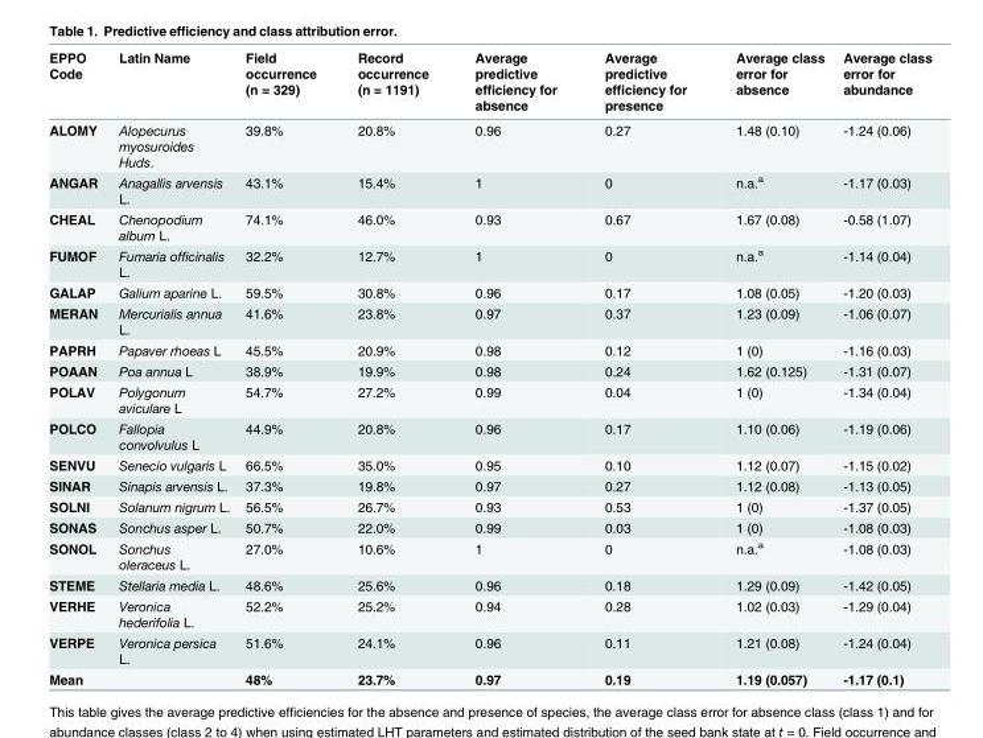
<table><thead><tr><td>EPPO Code</td><td>Latin Name</td><td>Field occurrence (n = 329)</td><td>Record occurrence (n = 1191)</td><td>Average predictive efficiency for absence</td><td>Average predictive efficiency for presence</td><td>Average class error for absence</td><td>Average class error for abundance</td></tr></thead><tbody><tr><td>ALOMY</td><td>Alopecurus myosuroides Huds.</td><td>39.8%</td><td>20.8%</td><td>0.96</td><td>0.27</td><td>1.48 (0.10)</td><td>-1.24 (0.06)</td></tr><tr><td>ANGAR</td><td>Anagallis arvensis L.</td><td>43.1%</td><td>15.4%</td><td>1</td><td>0</td><td>n.a.<sup>a</sup></td><td>-1.17 (0.03)</td></tr><tr><td>CHEAL</td><td>Chenopodium album L.</td><td>74.1%</td><td>46.0%</td><td>0.93</td><td>0.67</td><td>1.67 (0.08)</td><td>-0.58 (1.07)</td></tr><tr><td>FUMOF</td><td>Fumaria officinalis L.</td><td>32.2%</td><td>12.7%</td><td>1</td><td>0</td><td>n.a.<sup>a</sup></td><td>-1.14 (0.04)</td></tr><tr><td>GALAP</td><td>Galium aparine L.</td><td>59.5%</td><td>30.8%</td><td>0.96</td><td>0.17</td><td>1.08 (0.05)</td><td>-1.20 (0.03)</td></tr><tr><td>MERAN</td><td>Mercurialis annua L.</td><td>41.6%</td><td>23.8%</td><td>0.97</td><td>0.37</td><td>1.23 (0.09)</td><td>-1.06 (0.07)</td></tr><tr><td>PAPRH</td><td>Papaver rhoeas L</td><td>45.5%</td><td>20.9%</td><td>0.98</td><td>0.12</td><td>1 (0)</td><td>-1.16 (0.03)</td></tr><tr><td>POAAN</td><td>Poa annua L</td><td>38.9%</td><td>19.9%</td><td>0.98</td><td>0.24</td><td>1.62 (0.125)</td><td>-1.31 (0.07)</td></tr><tr><td>POLAV</td><td>Polygonum aviculare L</td><td>54.7%</td><td>27.2%</td><td>0.99</td><td>0.04</td><td>1 (0)</td><td>-1.34 (0.04)</td></tr><tr><td>POLCO</td><td>Fallopia convolvulus L</td><td>44.9%</td><td>20.8%</td><td>0.96</td><td>0.17</td><td>1.10 (0.06)</td><td>-1.19 (0.06)</td></tr><tr><td>SENVU</td><td>Senecio vulgaris L</td><td>66.5%</td><td>35.0%</td><td>0.95</td><td>0.10</td><td>1.12 (0.07)</td><td>-1.15 (0.02)</td></tr><tr><td>SINAR</td><td>Sinapis arvensis L.</td><td>37.3%</td><td>19.8%</td><td>0.97</td><td>0.27</td><td>1.12 (0.08)</td><td>-1.13 (0.05)</td></tr><tr><td>SOLNI</td><td>Solanum nigrum L.</td><td>56.5%</td><td>26.7%</td><td>0.93</td><td>0.53</td><td>1 (0)</td><td>-1.37 (0.05)</td></tr><tr><td>SONAS</td><td>Sonchus asper L.</td><td>50.7%</td><td>22.0%</td><td>0.99</td><td>0.03</td><td>1 (0)</td><td>-1.08 (0.03)</td></tr><tr><td>SONOL</td><td>Sonchus oleraceus L.</td><td>27.0%</td><td>10.6%</td><td>1</td><td>0</td><td>n.a.<sup>a</sup></td><td>-1.08 (0.03)</td></tr><tr><td>STEME</td><td>Stellaria media L.</td><td>48.6%</td><td>25.6%</td><td>0.96</td><td>0.18</td><td>1.29 (0.09)</td><td>-1.42 (0.05)</td></tr><tr><td>VERHE</td><td>Veronica hederifolia L.</td><td>52.2%</td><td>25.2%</td><td>0.94</td><td>0.28</td><td>1.02 (0.03)</td><td>-1.29 (0.04)</td></tr><tr><td>VERPE</td><td>Veronica persica L.</td><td>51.6%</td><td>24.1%</td><td>0.96</td><td>0.11</td><td>1.21 (0.08)</td><td>-1.24 (0.04)</td></tr><tr><td>Mean</td><td></td><td>48%</td><td>23.7%</td><td>0.97</td><td>0.19</td><td>1.19 (0.057)</td><td>-1.17 (0.1)</td></tr></tbody></table>